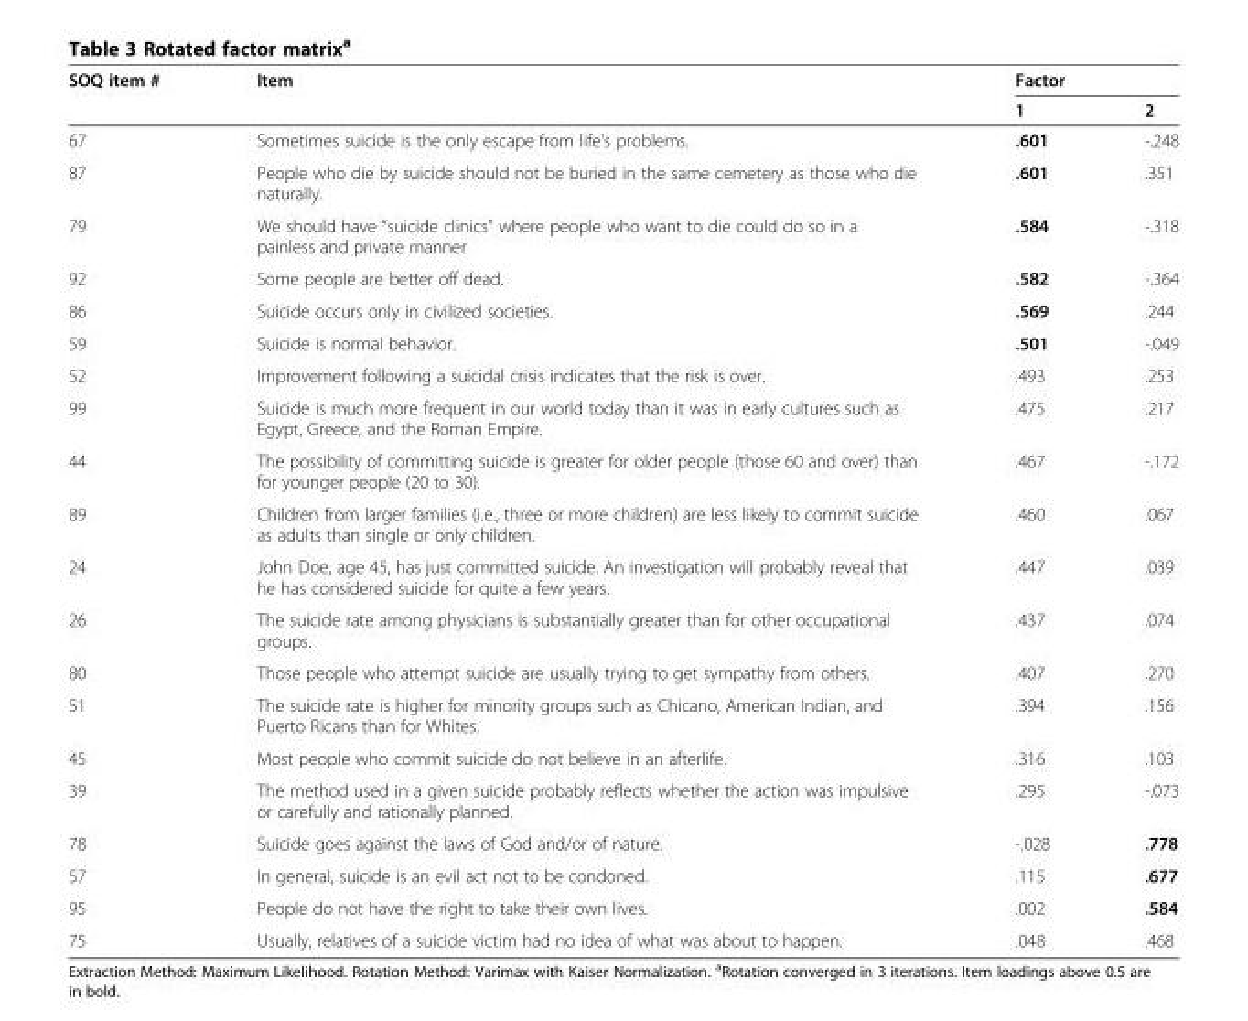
<table><thead><tr><td rowspan="2">SOQ item #</td><td rowspan="2">Item</td><td colspan="2">Factor</td></tr><tr><td>1</td><td>2</td></tr></thead><tbody><tr><td>67</td><td>Sometimes suicide is the only escape from life’s problems.</td><td>.601</td><td>-.248</td></tr><tr><td>87</td><td>People who die by suicide should not be buried in the same cemetery as those who die naturally.</td><td>.601</td><td>.351</td></tr><tr><td>79</td><td>We should have “suicide clinics” where people who want to die could do so in a painless and private manner</td><td>.584</td><td>-.318</td></tr><tr><td>92</td><td>Some people are better off dead.</td><td>.582</td><td>-.364</td></tr><tr><td>86</td><td>Suicide occurs only in civilized societies.</td><td>.569</td><td>.244</td></tr><tr><td>59</td><td>Suicide is normal behavior.</td><td>.501</td><td>-.049</td></tr><tr><td>52</td><td>Improvement following a suicidal crisis indicates that the risk is over.</td><td>.493</td><td>.253</td></tr><tr><td>99</td><td>Suicide is much more frequent in our world today than it was in early cultures such as Egypt, Greece, and the Roman Empire.</td><td>.475</td><td>.217</td></tr><tr><td>44</td><td>The possibility of committing suicide is greater for older people (those 60 and over) than for younger people (20 to 30).</td><td>.467</td><td>-.172</td></tr><tr><td>89</td><td>Children from larger families (i.e., three or more children) are less likely to commit suicide as adults than single or only children.</td><td>.460</td><td>.067</td></tr><tr><td>24</td><td>John Doe, age 45, has just committed suicide. An investigation will probably reveal that he has considered suicide for quite a few years.</td><td>.447</td><td>.039</td></tr><tr><td>26</td><td>The suicide rate among physicians is substantially greater than for other occupational groups.</td><td>.437</td><td>.074</td></tr><tr><td>80</td><td>Those people who attempt suicide are usually trying to get sympathy from others.</td><td>.407</td><td>.270</td></tr><tr><td>51</td><td>The suicide rate is higher for minority groups such as Chicano, American Indian, and Puerto Ricans than for Whites.</td><td>.394</td><td>.156</td></tr><tr><td>45</td><td>Most people who commit suicide do not believe in an afterlife.</td><td>.316</td><td>.103</td></tr><tr><td>39</td><td>The method used in a given suicide probably reflects whether the action was impulsive or carefully and rationally planned.</td><td>.295</td><td>-.073</td></tr><tr><td>78</td><td>Suicide goes against the laws of God and/or of nature.</td><td>-.028</td><td>.778</td></tr><tr><td>57</td><td>In general, suicide is an evil act not to be condoned.</td><td>.115</td><td>.677</td></tr><tr><td>95</td><td>People do not have the right to take their own lives.</td><td>.002</td><td>.584</td></tr><tr><td>75</td><td>Usually, relatives of a suicide victim had no idea of what was about to happen.</td><td>.048</td><td>.468</td></tr></tbody></table>